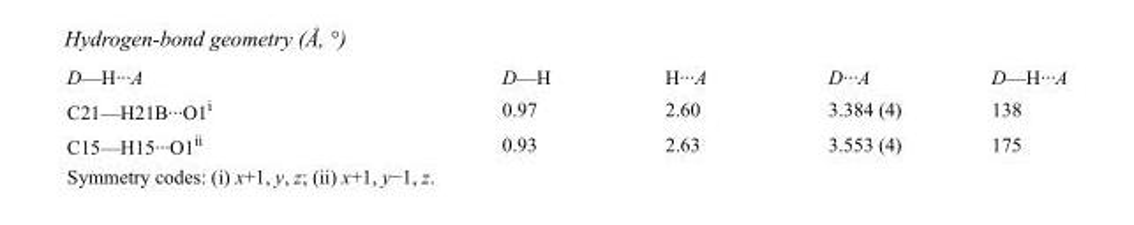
<table><tbody><tr><td>D—H···A</td><td>D—H</td><td>H···A</td><td>D···A</td><td>D—H···A</td></tr><tr><td>C21—H21B···O1<sup>i</sup></td><td>0.97</td><td>2.60</td><td>3.384 (4)</td><td>138</td></tr><tr><td>C15—H15···O1<sup>ii</sup></td><td>0.93</td><td>2.63</td><td>3.553 (4)</td><td>175</td></tr></tbody></table>